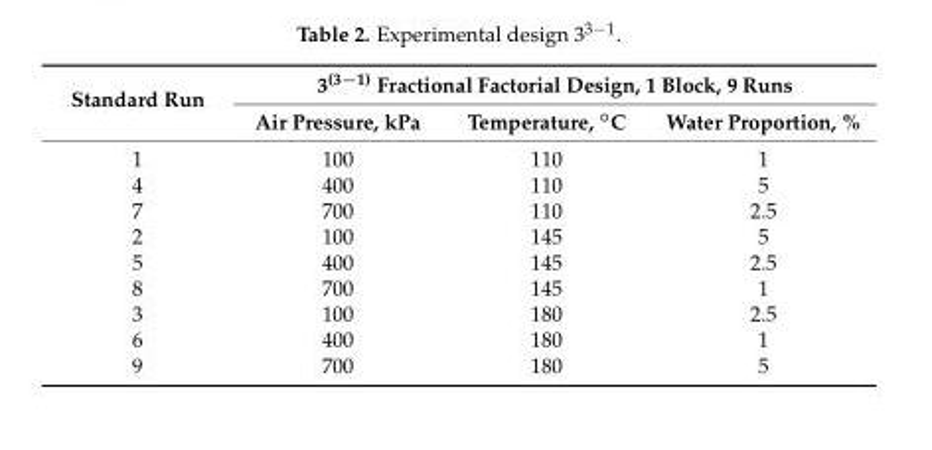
<table><thead><tr><td rowspan="2">Standard Run</td><td colspan="3">3<sup>(3−1)</sup> Fractional Factorial Design, 1 Block, 9 Runs</td></tr><tr><td>Air Pressure, kPa</td><td>Temperature, ◦C</td><td>Water Proportion, %</td></tr></thead><tbody><tr><td>1</td><td>100</td><td>110</td><td>1</td></tr><tr><td>4</td><td>400</td><td>110</td><td>5</td></tr><tr><td>7</td><td>700</td><td>110</td><td>2.5</td></tr><tr><td>2</td><td>100</td><td>145</td><td>5</td></tr><tr><td>5</td><td>400</td><td>145</td><td>2.5</td></tr><tr><td>8</td><td>700</td><td>145</td><td>1</td></tr><tr><td>3</td><td>100</td><td>180</td><td>2.5</td></tr><tr><td>6</td><td>400</td><td>180</td><td>1</td></tr><tr><td>9</td><td>700</td><td>180</td><td>5</td></tr></tbody></table>